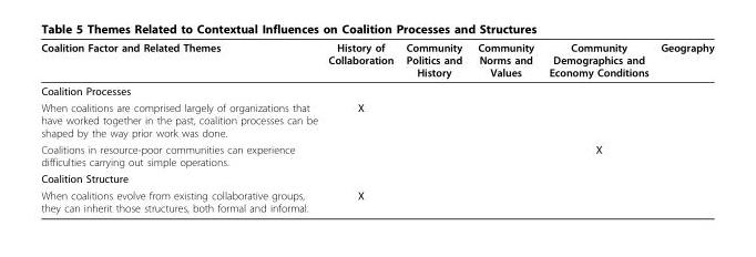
<table><thead><tr><td>Coalition Factor and Related Themes</td><td>History of Collaboration</td><td>Community Politics and History</td><td>Community Norms and Values</td><td>Community Demographics and Economy Conditions</td><td>Geography</td></tr></thead><tbody><tr><td colspan="6">Coalition Processes</td></tr><tr><td>When coalitions are comprised largely of organizations that have worked together in the past, coalition processes can be shaped by the way prior work was done.</td><td>X</td><td></td><td></td><td></td><td></td></tr><tr><td>Coalitions in resource-poor communities can experience difficulties carrying out simple operations.</td><td></td><td></td><td></td><td>X</td><td></td></tr><tr><td colspan="6">Coalition Structure</td></tr><tr><td>When coalitions evolve from existing collaborative groups, they can inherit those structures, both formal and informal.</td><td>X</td><td></td><td></td><td></td><td></td></tr></tbody></table>